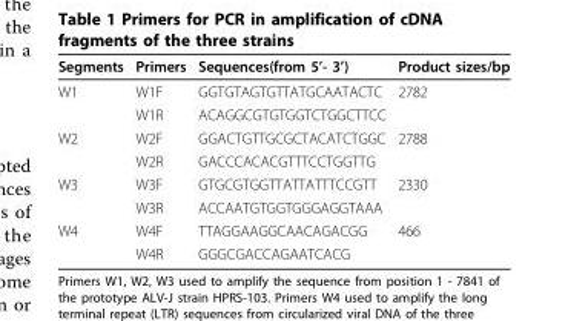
<table><thead><tr><td>Segments</td><td>Primers</td><td>Sequences(from 5’- 3’)</td><td>Product sizes/bp</td></tr></thead><tbody><tr><td rowspan="2">W1</td><td>W1F</td><td>GGTGTAGTGTTATGCAATACTC</td><td>2782</td></tr><tr><td>W1R</td><td>ACAGGCGTGTGGTCTGGCTTCC</td><td></td></tr><tr><td rowspan="2">W2</td><td>W2F</td><td>GGACTGTTGCGCTACATCTGGC</td><td>2788</td></tr><tr><td>W2R</td><td>GACCCACACGTTTCCTGGTTG</td><td></td></tr><tr><td rowspan="2">W3</td><td>W3F</td><td>GTGCGTGGTTATTATTTCCGTT</td><td>2330</td></tr><tr><td>W3R</td><td>ACCAATGTGGTGGGAGGTAAA</td><td></td></tr><tr><td rowspan="2">W4</td><td>W4F</td><td>TTAGGAAGGCAACAGACGG</td><td>466</td></tr><tr><td>W4R</td><td>GGGCGACCAGAATCACG</td><td></td></tr></tbody></table>